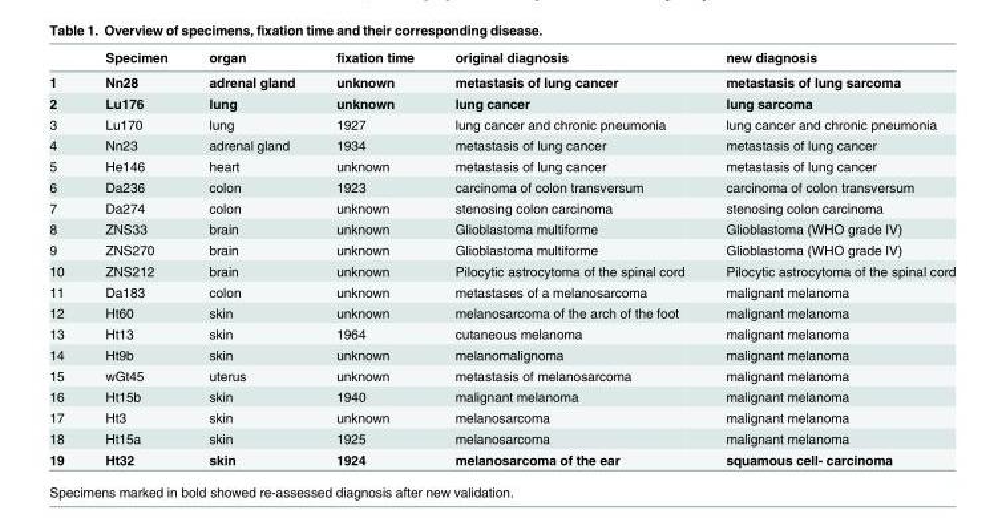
<table><thead><tr><td></td><td>Specimen</td><td>organ</td><td>fixation time</td><td>original diagnosis</td><td>new diagnosis</td></tr></thead><tbody><tr><td>1</td><td>Nn28</td><td>adrenal gland</td><td>unknown</td><td>metastasis of lung cancer</td><td>metastasis of lung sarcoma</td></tr><tr><td>2</td><td>Lu176</td><td>lung</td><td>unknown</td><td>lung cancer</td><td>lung sarcoma</td></tr><tr><td>3</td><td>Lu170</td><td>lung</td><td>1927</td><td>lung cancer and chronic pneumonia</td><td>lung cancer and chronic pneumonia</td></tr><tr><td>4</td><td>Nn23</td><td>adrenal gland</td><td>1934</td><td>metastasis of lung cancer</td><td>metastasis of lung cancer</td></tr><tr><td>5</td><td>He146</td><td>heart</td><td>unknown</td><td>metastasis of lung cancer</td><td>metastasis of lung cancer</td></tr><tr><td>6</td><td>Da236</td><td>colon</td><td>1923</td><td>carcinoma of colon transversum</td><td>carcinoma of colon transversum</td></tr><tr><td>7</td><td>Da274</td><td>colon</td><td>unknown</td><td>stenosing colon carcinoma</td><td>stenosing colon carcinoma</td></tr><tr><td>8</td><td>ZNS33</td><td>brain</td><td>unknown</td><td>Glioblastoma multiforme</td><td>Glioblastoma (WHO grade IV)</td></tr><tr><td>9</td><td>ZNS270</td><td>brain</td><td>unknown</td><td>Glioblastoma multiforme</td><td>Glioblastoma (WHO grade IV)</td></tr><tr><td>10</td><td>ZNS212</td><td>brain</td><td>unknown</td><td>Pilocytic astrocytoma of the spinal cord</td><td>Pilocytic astrocytoma of the spinal cord</td></tr><tr><td>11</td><td>Da183</td><td>colon</td><td>unknown</td><td>metastases of a melanosarcoma</td><td>malignant melanoma</td></tr><tr><td>12</td><td>Ht60</td><td>skin</td><td>unknown</td><td>melanosarcoma of the arch of the foot</td><td>malignant melanoma</td></tr><tr><td>13</td><td>Ht13</td><td>skin</td><td>1964</td><td>cutaneous melanoma</td><td>malignant melanoma</td></tr><tr><td>14</td><td>Ht9b</td><td>skin</td><td>unknown</td><td>melanomalignoma</td><td>malignant melanoma</td></tr><tr><td>15</td><td>wGt45</td><td>uterus</td><td>unknown</td><td>metastasis of melanosarcoma</td><td>malignant melanoma</td></tr><tr><td>16</td><td>Ht15b</td><td>skin</td><td>1940</td><td>malignant melanoma</td><td>malignant melanoma</td></tr><tr><td>17</td><td>Ht3</td><td>skin</td><td>unknown</td><td>melanosarcoma</td><td>malignant melanoma</td></tr><tr><td>18</td><td>Ht15a</td><td>skin</td><td>1925</td><td>melanosarcoma</td><td>malignant melanoma</td></tr><tr><td>19</td><td>Ht32</td><td>skin</td><td>1924</td><td>melanosarcoma of the ear</td><td>squamous cell- carcinoma</td></tr></tbody></table>